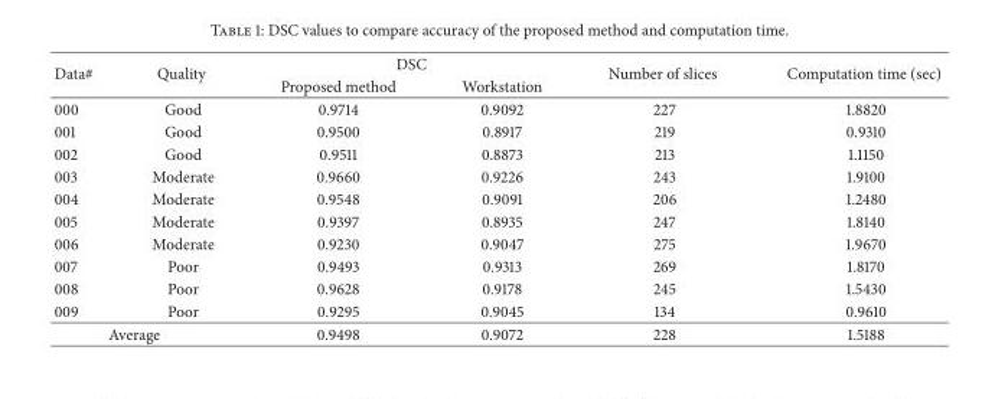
<table><thead><tr><td rowspan="2">Data#</td><td rowspan="2">Quality</td><td colspan="2">DSC</td><td rowspan="2">Number of slices</td><td rowspan="2">Computation time (sec)</td></tr><tr><td>Proposed method</td><td>Workstation</td></tr></thead><tbody><tr><td>000</td><td>Good</td><td>0.9714</td><td>0.9092</td><td>227</td><td>1.8820</td></tr><tr><td>001</td><td>Good</td><td>0.9500</td><td>0.8917</td><td>219</td><td>0.9310</td></tr><tr><td>002</td><td>Good</td><td>0.9511</td><td>0.8873</td><td>213</td><td>1.1150</td></tr><tr><td>003</td><td>Moderate</td><td>0.9660</td><td>0.9226</td><td>243</td><td>1.9100</td></tr><tr><td>004</td><td>Moderate</td><td>0.9548</td><td>0.9091</td><td>206</td><td>1.2480</td></tr><tr><td>005</td><td>Moderate</td><td>0.9397</td><td>0.8935</td><td>247</td><td>1.8140</td></tr><tr><td>006</td><td>Moderate</td><td>0.9230</td><td>0.9047</td><td>275</td><td>1.9670</td></tr><tr><td>007</td><td>Poor</td><td>0.9493</td><td>0.9313</td><td>269</td><td>1.8170</td></tr><tr><td>008</td><td>Poor</td><td>0.9628</td><td>0.9178</td><td>245</td><td>1.5430</td></tr><tr><td>009</td><td>Poor</td><td>0.9295</td><td>0.9045</td><td>134</td><td>0.9610</td></tr><tr><td colspan="2">Average</td><td>0.9498</td><td>0.9072</td><td>228</td><td>1.5188</td></tr></tbody></table>